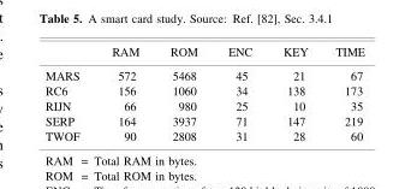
<table><thead><tr><td></td><td>RAM</td><td>ROM</td><td>ENC</td><td>KEY</td><td>TIME</td></tr></thead><tbody><tr><td>MARS</td><td>572</td><td>5468</td><td>45</td><td>21</td><td>67</td></tr><tr><td>RC6</td><td>156</td><td>1060</td><td>34</td><td>138</td><td>173</td></tr><tr><td>RIJN</td><td>66</td><td>980</td><td>25</td><td>10</td><td>35</td></tr><tr><td>SERP</td><td>164</td><td>3937</td><td>71</td><td>147</td><td>219</td></tr><tr><td>TWOF</td><td>90</td><td>2808</td><td>31</td><td>28</td><td>60</td></tr></tbody></table>